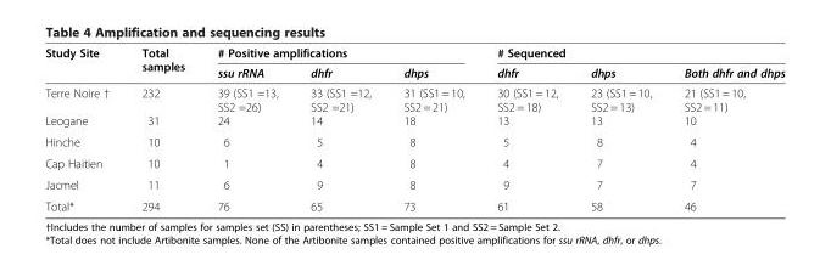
<table><thead><tr><td rowspan="3">Study Site Terre Noire †</td><td rowspan="3">Total samples 232</td><td colspan="3"># Positive amplifications</td><td colspan="3"># Sequenced</td></tr><tr><td rowspan="2">ssu rRNA 39 (SS1 =13, SS2 =26)</td><td rowspan="2">dhfr 33 (SS1 =12, SS2 =21)</td><td rowspan="2">dhps 31 (SS1 = 10, SS2 = 21)</td><td rowspan="2">dhfr 30 (SS1 = 12, SS2 = 18)</td><td rowspan="2">dhps 23 (SS1 = 10, SS2 = 13)</td><td rowspan="2">Both dhfr and dhps 21 (SS1 = 10, SS2 = 11)</td></tr><tr></tr></thead><tbody><tr><td>Leogane</td><td>31</td><td>24</td><td>14</td><td>18</td><td>13</td><td>13</td><td>10</td></tr><tr><td>Hinche</td><td>10</td><td>6</td><td>5</td><td>8</td><td>5</td><td>8</td><td>4</td></tr><tr><td>Cap Haitien</td><td>10</td><td>1</td><td>4</td><td>8</td><td>4</td><td>7</td><td>4</td></tr><tr><td>Jacmel</td><td>11</td><td>6</td><td>9</td><td>8</td><td>9</td><td>7</td><td>7</td></tr><tr><td>Total*</td><td>294</td><td>76</td><td>65</td><td>73</td><td>61</td><td>58</td><td>46</td></tr></tbody></table>